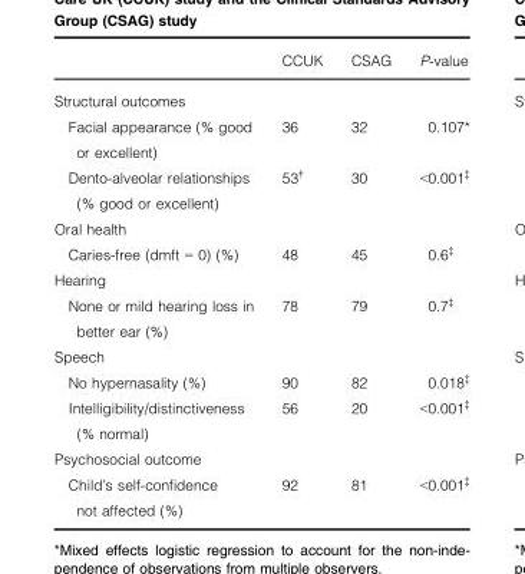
<table><thead><tr><td></td><td>CCUK</td><td>CSAG</td><td>P-value</td></tr></thead><tbody><tr><td colspan="4">Structural outcomes</td></tr><tr><td>Facial appearance (% good or excellent)</td><td>36</td><td>32</td><td>0.107*</td></tr><tr><td>Dento-alveolar relationships (% good or excellent)</td><td>53†</td><td>30</td><td>&lt;0.001‡</td></tr><tr><td colspan="4">Oral health</td></tr><tr><td>Caries-free (dmft = 0) (%)</td><td>48</td><td>45</td><td>0.6‡</td></tr><tr><td colspan="4">Hearing</td></tr><tr><td>None or mild hearing loss in better ear (%)</td><td>78</td><td>79</td><td>0.7‡</td></tr><tr><td colspan="4">Speech</td></tr><tr><td>No hypernasality (%)</td><td>90</td><td>82</td><td>0.018‡</td></tr><tr><td>Intelligibility/distinctiveness (% normal)</td><td>56</td><td>20</td><td>&lt;0.001‡</td></tr><tr><td colspan="4">Psychosocial outcome</td></tr><tr><td>Child’s self-confidence not affected (%)</td><td>92</td><td>81</td><td>&lt;0.001‡</td></tr></tbody></table>